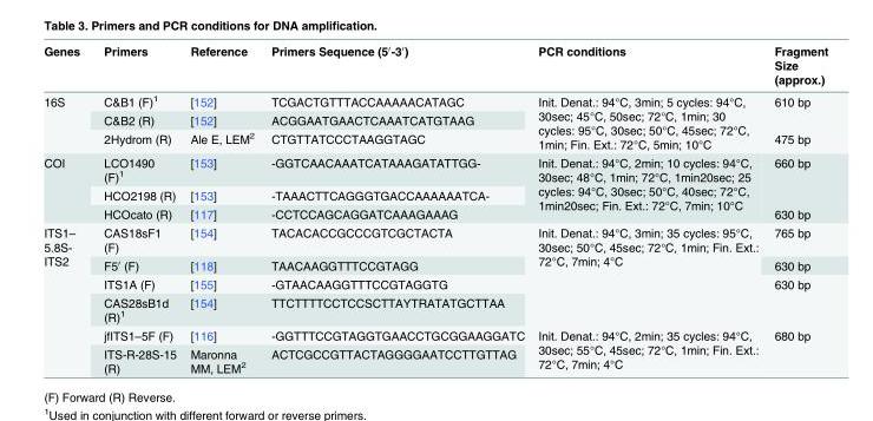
<table><thead><tr><td>Genes</td><td>Primers</td><td>Reference</td><td>Primers Sequence (5′-3′)</td><td>PCR conditions</td><td>Fragment Size (approx.)</td></tr></thead><tbody><tr><td rowspan="3">16S</td><td>C&amp;B1 (F)<sup>1</sup></td><td>[152]</td><td>TCGACTGTTTACCAAAAACATAGC</td><td rowspan="3">Init. Denat.: 94°C, 3min; 5 cycles: 94°C, 30sec; 45°C, 50sec; 72°C, 1min; 30 cycles: 95°C, 30sec; 50°C, 45sec; 72°C, 1min; Fin. Ext.: 72°C, 5min; 10°C</td><td rowspan="2">610 bp</td></tr><tr><td>C&amp;B2 (R)</td><td>[152]</td><td>ACGGAATGAACTCAAATCATGTAAG</td></tr><tr><td>2Hydrom (R)</td><td>Ale E, LEM<sup>2</sup></td><td>CTGTTATCCCTAAGGTAGC</td><td>475 bp</td></tr><tr><td rowspan="3">COI</td><td>LCO1490 (F)<sup>1</sup></td><td>[153]</td><td>-GGTCAACAAATCATAAAGATATTGG-</td><td rowspan="3">Init. Denat.: 94°C, 2min; 10 cycles: 94°C, 30sec; 48°C, 1min; 72°C, 1min20sec; 25 cycles: 94°C, 30sec; 50°C, 40sec; 72°C, 1min20sec; Fin. Ext.: 72°C, 7min; 10°C</td><td rowspan="2">660 bp</td></tr><tr><td>HCO2198 (R)</td><td>[153]</td><td>-TAAACTTCAGGGTGACCAAAAAATCA-</td></tr><tr><td>HCOcato (R)</td><td>[117]</td><td>-CCTCCAGCAGGATCAAAGAAAG</td><td>630 bp</td></tr><tr><td rowspan="6">ITS1– 5.8S- ITS2</td><td>CAS18sF1 (F)</td><td>[154]</td><td>TACACACCGCCCGTCGCTACTA</td><td rowspan="4">Init. Denat.: 94°C, 3min; 35 cycles: 95°C, 30sec; 50°C, 45sec; 72°C, 1min; Fin. Ext.: 72°C, 7min; 4°C</td><td>765 bp</td></tr><tr><td>F5′ (F)</td><td>[118]</td><td>TAACAAGGTTTCCGTAGG</td><td>630 bp</td></tr><tr><td>ITS1A (F)</td><td>[155]</td><td>-GTAACAAGGTTTCCGTAGGTG</td><td rowspan="2">630 bp</td></tr><tr><td>CAS28sB1d (R)<sup>1</sup></td><td>[154]</td><td>TTCTTTTCCTCCSCTTAYTRATATGCTTAA</td></tr><tr><td>jfITS1–5F (F)</td><td>[116]</td><td>-GGTTTCCGTAGGTGAACCTGCGGAAGGATC</td><td rowspan="2">Init. Denat.: 94°C, 2min; 35 cycles: 94°C, 30sec; 55°C, 45sec; 72°C, 1min; Fin. Ext.: 72°C, 7min; 4°C</td><td rowspan="2">680 bp</td></tr><tr><td>ITS-R-28S-15 (R)</td><td>Maronna MM, LEM<sup>2</sup></td><td>ACTCGCCGTTACTAGGGGAATCCTTGTTAG</td></tr></tbody></table>